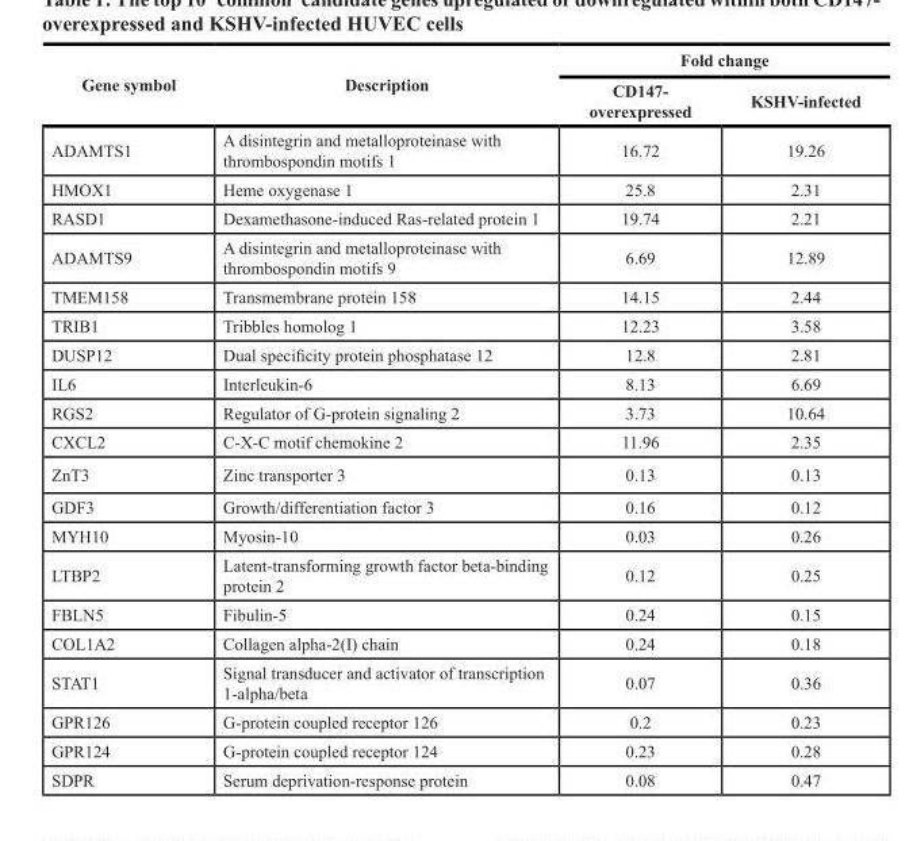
<table><thead><tr><td rowspan="2">Gene symbol</td><td rowspan="2">Description</td><td colspan="2">Fold change</td></tr><tr><td>CD147- overexpressed</td><td>KSHV-infected</td></tr></thead><tbody><tr><td>ADAMTS1</td><td>A disintegrin and metalloproteinase with thrombospondin motifs 1</td><td>16.72</td><td>19.26</td></tr><tr><td>HMOX1</td><td>Heme oxygenase 1</td><td>25.8</td><td>2.31</td></tr><tr><td>RASD1</td><td>Dexamethasone-induced Ras-related protein 1</td><td>19.74</td><td>2.21</td></tr><tr><td>ADAMTS9</td><td>A disintegrin and metalloproteinase with thrombospondin motifs 9</td><td>6.69</td><td>12.89</td></tr><tr><td>TMEM158</td><td>Transmembrane protein 158</td><td>14.15</td><td>2.44</td></tr><tr><td>TRIB1</td><td>Tribbles homolog 1</td><td>12.23</td><td>3.58</td></tr><tr><td>DUSP12</td><td>Dual specificity protein phosphatase 12</td><td>12.8</td><td>2.81</td></tr><tr><td>IL6</td><td>Interleukin-6</td><td>8.13</td><td>6.69</td></tr><tr><td>RGS2</td><td>Regulator of G-protein signaling 2</td><td>3.73</td><td>10.64</td></tr><tr><td>CXCL2</td><td>C-X-C motif chemokine 2</td><td>11.96</td><td>2.35</td></tr><tr><td>ZnT3</td><td>Zinc transporter 3</td><td>0.13</td><td>0.13</td></tr><tr><td>GDF3</td><td>Growth/differentiation factor 3</td><td>0.16</td><td>0.12</td></tr><tr><td>MYH10</td><td>Myosin-10</td><td>0.03</td><td>0.26</td></tr><tr><td>LTBP2</td><td>Latent-transforming growth factor beta-binding protein 2</td><td>0.12</td><td>0.25</td></tr><tr><td>FBLN5</td><td>Fibulin-5</td><td>0.24</td><td>0.15</td></tr><tr><td>COL1A2</td><td>Collagen alpha-2(I) chain</td><td>0.24</td><td>0.18</td></tr><tr><td>STAT1</td><td>Signal transducer and activator of transcription 1-alpha/beta</td><td>0.07</td><td>0.36</td></tr><tr><td>GPR126</td><td>G-protein coupled receptor 126</td><td>0.2</td><td>0.23</td></tr><tr><td>GPR124</td><td>G-protein coupled receptor 124</td><td>0.23</td><td>0.28</td></tr><tr><td>SDPR</td><td>Serum deprivation-response protein</td><td>0.08</td><td>0.47</td></tr></tbody></table>